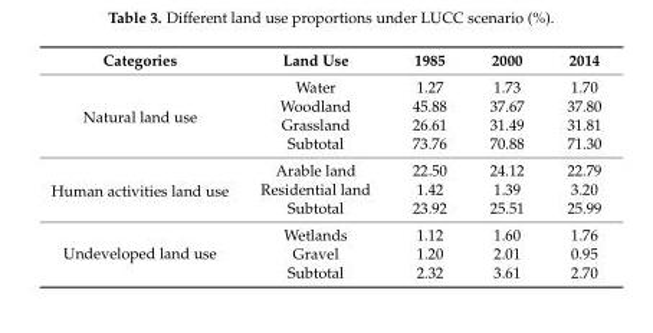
<table><thead><tr><td>Categories</td><td>Land Use</td><td>1985</td><td>2000</td><td>2014</td></tr></thead><tbody><tr><td rowspan="4">Natural land use</td><td>Water</td><td>1.27</td><td>1.73</td><td>1.70</td></tr><tr><td>Woodland</td><td>45.88</td><td>37.67</td><td>37.80</td></tr><tr><td>Grassland</td><td>26.61</td><td>31.49</td><td>31.81</td></tr><tr><td>Subtotal</td><td>73.76</td><td>70.88</td><td>71.30</td></tr><tr><td rowspan="3">Human activities land use</td><td>Arable land</td><td>22.50</td><td>24.12</td><td>22.79</td></tr><tr><td>Residential land</td><td>1.42</td><td>1.39</td><td>3.20</td></tr><tr><td>Subtotal</td><td>23.92</td><td>25.51</td><td>25.99</td></tr><tr><td rowspan="3">Undeveloped land use</td><td>Wetlands</td><td>1.12</td><td>1.60</td><td>1.76</td></tr><tr><td>Gravel</td><td>1.20</td><td>2.01</td><td>0.95</td></tr><tr><td>Subtotal</td><td>2.32</td><td>3.61</td><td>2.70</td></tr></tbody></table>